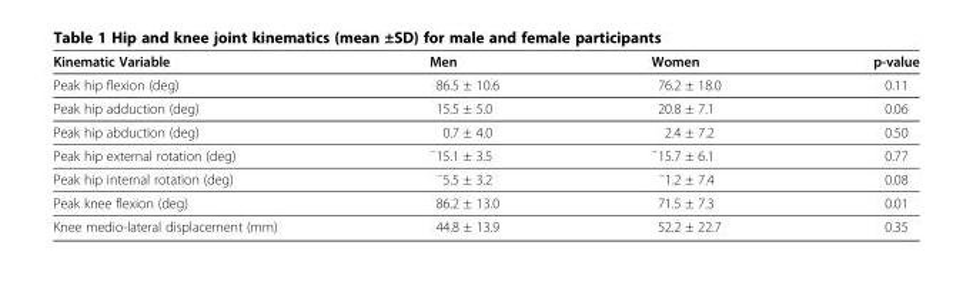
<table><thead><tr><td>Kinematic Variable</td><td>Men</td><td>Women</td><td>p-value</td></tr></thead><tbody><tr><td>Peak hip flexion (deg)</td><td>86.5 ± 10.6</td><td>76.2 ± 18.0</td><td>0.11</td></tr><tr><td>Peak hip adduction (deg)</td><td>15.5 ± 5.0</td><td>20.8 ± 7.1</td><td>0.06</td></tr><tr><td>Peak hip abduction (deg)</td><td>0.7 ± 4.0</td><td>2.4 ± 7.2</td><td>0.50</td></tr><tr><td>Peak hip external rotation (deg)</td><td><sup>−</sup>15.1 ± 3.5</td><td><sup>−</sup>15.7 ± 6.1</td><td>0.77</td></tr><tr><td>Peak hip internal rotation (deg)</td><td><sup>−</sup>5.5 ± 3.2</td><td><sup>−</sup>1.2 ± 7.4</td><td>0.08</td></tr><tr><td>Peak knee flexion (deg)</td><td>86.2 ± 13.0</td><td>71.5 ± 7.3</td><td>0.01</td></tr><tr><td>Knee medio-lateral displacement (mm)</td><td>44.8 ± 13.9</td><td>52.2 ± 22.7</td><td>0.35</td></tr></tbody></table>